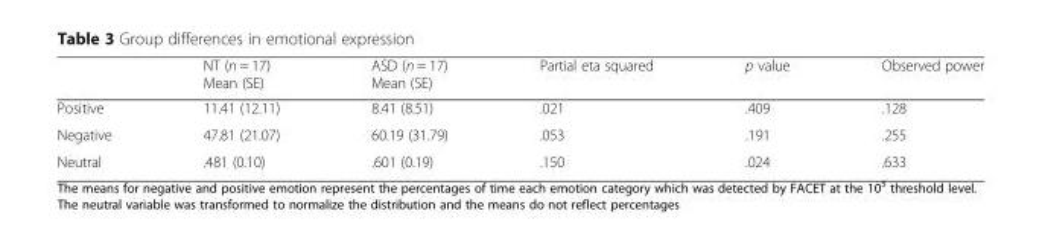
<table><thead><tr><td></td><td>NT (n = 17) Mean (SE)</td><td>ASD (n = 17) Mean (SE)</td><td>Partial eta squared</td><td>p value</td><td>Observed power</td></tr></thead><tbody><tr><td>Positive</td><td>11.41 (12.11)</td><td>8.41 (8.51)</td><td>.021</td><td>.409</td><td>.128</td></tr><tr><td>Negative</td><td>47.81 (21.07)</td><td>60.19 (31.79)</td><td>.053</td><td>.191</td><td>.255</td></tr><tr><td>Neutral</td><td>.481 (0.10)</td><td>.601 (0.19)</td><td>.150</td><td>.024</td><td>.633</td></tr></tbody></table>